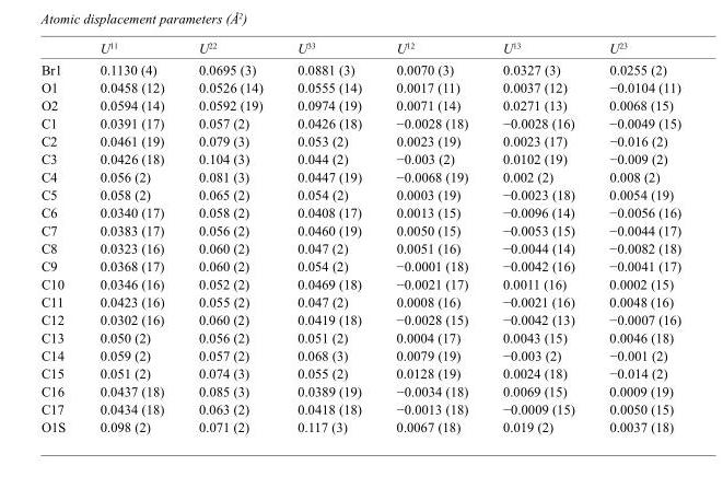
<table><thead><tr><td></td><td>U<sup>11</sup></td><td>U<sup>22</sup></td><td>U<sup>33</sup></td><td>U<sup>12</sup></td><td>U<sup>13</sup></td><td>U<sup>23</sup></td></tr></thead><tbody><tr><td>Br1</td><td>0.1130 (4)</td><td>0.0695 (3)</td><td>0.0881 (3)</td><td>0.0070 (3)</td><td>0.0327 (3)</td><td>0.0255 (2)</td></tr><tr><td>O1</td><td>0.0458 (12)</td><td>0.0526 (14)</td><td>0.0555 (14)</td><td>0.0017 (11)</td><td>0.0037 (12)</td><td>−0.0104 (11)</td></tr><tr><td>O2</td><td>0.0594 (14)</td><td>0.0592 (19)</td><td>0.0974 (19)</td><td>0.0071 (14)</td><td>0.0271 (13)</td><td>0.0068 (15)</td></tr><tr><td>C1</td><td>0.0391 (17)</td><td>0.057 (2)</td><td>0.0426 (18)</td><td>−0.0028 (18)</td><td>−0.0028 (16)</td><td>−0.0049 (15)</td></tr><tr><td>C2</td><td>0.0461 (19)</td><td>0.079 (3)</td><td>0.053 (2)</td><td>0.0023 (19)</td><td>0.0023 (17)</td><td>−0.016 (2)</td></tr><tr><td>C3</td><td>0.0426 (18)</td><td>0.104 (3)</td><td>0.044 (2)</td><td>−0.003 (2)</td><td>0.0102 (19)</td><td>−0.009 (2)</td></tr><tr><td>C4</td><td>0.056 (2)</td><td>0.081 (3)</td><td>0.0447 (19)</td><td>−0.0068 (19)</td><td>0.002 (2)</td><td>0.008 (2)</td></tr><tr><td>C5</td><td>0.058 (2)</td><td>0.065 (2)</td><td>0.054 (2)</td><td>0.0003 (19)</td><td>−0.0023 (18)</td><td>0.0054 (19)</td></tr><tr><td>C6</td><td>0.0340 (17)</td><td>0.058 (2)</td><td>0.0408 (17)</td><td>0.0013 (15)</td><td>−0.0096 (14)</td><td>−0.0056 (16)</td></tr><tr><td>C7</td><td>0.0383 (17)</td><td>0.056 (2)</td><td>0.0460 (19)</td><td>0.0050 (15)</td><td>−0.0053 (15)</td><td>−0.0044 (17)</td></tr><tr><td>C8</td><td>0.0323 (16)</td><td>0.060 (2)</td><td>0.047 (2)</td><td>0.0051 (16)</td><td>−0.0044 (14)</td><td>−0.0082 (18)</td></tr><tr><td>C9</td><td>0.0368 (17)</td><td>0.060 (2)</td><td>0.054 (2)</td><td>−0.0001 (18)</td><td>−0.0042 (16)</td><td>−0.0041 (17)</td></tr><tr><td>C10</td><td>0.0346 (16)</td><td>0.052 (2)</td><td>0.0469 (18)</td><td>−0.0021 (17)</td><td>0.0011 (16)</td><td>0.0002 (15)</td></tr><tr><td>C11</td><td>0.0423 (16)</td><td>0.055 (2)</td><td>0.047 (2)</td><td>0.0008 (16)</td><td>−0.0021 (16)</td><td>0.0048 (16)</td></tr><tr><td>C12</td><td>0.0302 (16)</td><td>0.060 (2)</td><td>0.0419 (18)</td><td>−0.0028 (15)</td><td>−0.0042 (13)</td><td>−0.0007 (16)</td></tr><tr><td>C13</td><td>0.050 (2)</td><td>0.056 (2)</td><td>0.051 (2)</td><td>0.0004 (17)</td><td>0.0043 (15)</td><td>0.0046 (18)</td></tr><tr><td>C14</td><td>0.059 (2)</td><td>0.057 (2)</td><td>0.068 (3)</td><td>0.0079 (19)</td><td>−0.003 (2)</td><td>−0.001 (2)</td></tr><tr><td>C15</td><td>0.051 (2)</td><td>0.074 (3)</td><td>0.055 (2)</td><td>0.0128 (19)</td><td>0.0024 (18)</td><td>−0.014 (2)</td></tr><tr><td>C16</td><td>0.0437 (18)</td><td>0.085 (3)</td><td>0.0389 (19)</td><td>−0.0034 (18)</td><td>0.0069 (15)</td><td>0.0009 (19)</td></tr><tr><td>C17</td><td>0.0434 (18)</td><td>0.063 (2)</td><td>0.0418 (18)</td><td>−0.0013 (18)</td><td>−0.0009 (15)</td><td>0.0050 (15)</td></tr><tr><td>O1S</td><td>0.098 (2)</td><td>0.071 (2)</td><td>0.117 (3)</td><td>0.0067 (18)</td><td>0.019 (2)</td><td>0.0037 (18)</td></tr></tbody></table>